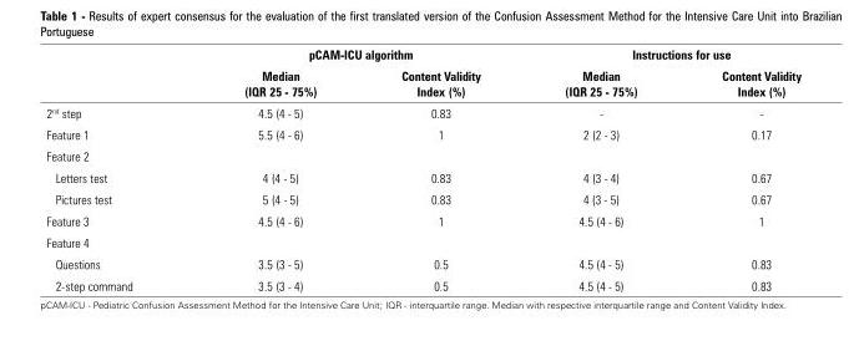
<table><thead><tr><td rowspan="2"></td><td colspan="2">pCAM-ICU algorithm</td><td colspan="2">Instructions for use</td></tr><tr><td>Median (IQR 25 - 75%)</td><td>Content Validity Index (%)</td><td>Median (IQR 25 - 75%)</td><td>Content Validity Index (%)</td></tr></thead><tbody><tr><td>2<sup>nd</sup> step</td><td>4.5 (4 - 5)</td><td>0.83</td><td>-</td><td>-</td></tr><tr><td>Feature 1</td><td>5.5 (4 - 6)</td><td>1</td><td>2 (2 - 3)</td><td>0.17</td></tr><tr><td colspan="5">Feature 2</td></tr><tr><td>Letters test</td><td>4 (4 - 5)</td><td>0.83</td><td>4 (3 - 4)</td><td>0.67</td></tr><tr><td>Pictures test</td><td>5 (4 - 5)</td><td>0.83</td><td>4 (3 - 5)</td><td>0.67</td></tr><tr><td>Feature 3</td><td>4.5 (4 - 6)</td><td>1</td><td>4.5 (4 - 6)</td><td>1</td></tr><tr><td colspan="5">Feature 4</td></tr><tr><td>Questions</td><td>3.5 (3 - 5)</td><td>0.5</td><td>4.5 (4 - 5)</td><td>0.83</td></tr><tr><td>2-step command</td><td>3.5 (3 - 4)</td><td>0.5</td><td>4.5 (4 - 5)</td><td>0.83</td></tr></tbody></table>